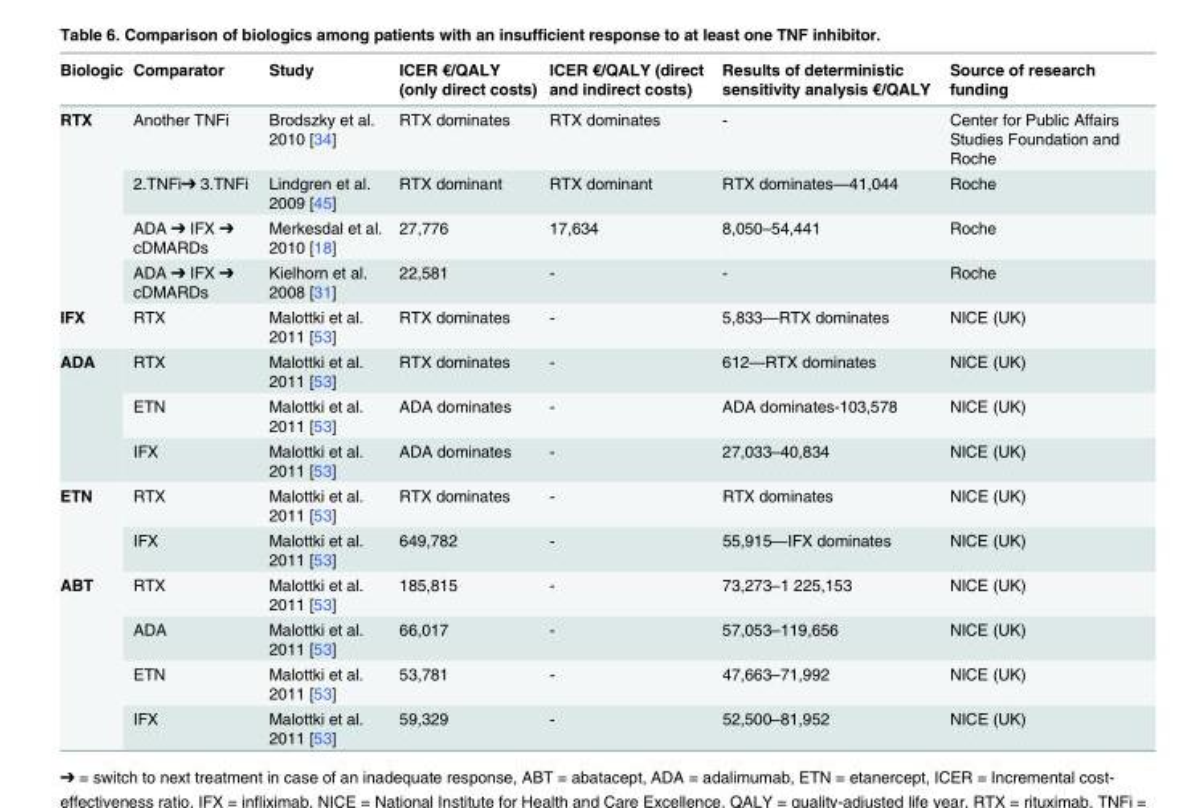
<table><thead><tr><td>Biologic</td><td>Comparator</td><td>Study</td><td>ICER €/QALY (only direct costs)</td><td>ICER €/QALY (direct and indirect costs)</td><td>Results of deterministic sensitivity analysis €/QALY</td><td>Source of research funding</td></tr></thead><tbody><tr><td rowspan="4">RTX</td><td>Another TNFi</td><td>Brodszky et al. 2010 [34]</td><td>RTX dominates</td><td>RTX dominates</td><td>-</td><td>Center for Public Affairs Studies Foundation and Roche</td></tr><tr><td>2.TNFi➔ 3.TNFi</td><td>Lindgren et al. 2009 [45]</td><td>RTX dominant</td><td>RTX dominant</td><td>RTX dominates—41,044</td><td>Roche</td></tr><tr><td>ADA ➔ IFX ➔ cDMARDs</td><td>Merkesdal et al. 2010 [18]</td><td>27,776</td><td>17,634</td><td>8,050–54,441</td><td>Roche</td></tr><tr><td>ADA ➔ IFX ➔ cDMARDs</td><td>Kielhorn et al. 2008 [31]</td><td>22,581</td><td>-</td><td>-</td><td>Roche</td></tr><tr><td>IFX</td><td>RTX</td><td>Malottki et al. 2011 [53]</td><td>RTX dominates</td><td>-</td><td>5,833—RTX dominates</td><td>NICE (UK)</td></tr><tr><td rowspan="3">ADA</td><td>RTX</td><td>Malottki et al. 2011 [53]</td><td>RTX dominates</td><td>-</td><td>612—RTX dominates</td><td>NICE (UK)</td></tr><tr><td>ETN</td><td>Malottki et al. 2011 [53]</td><td>ADA dominates</td><td>-</td><td>ADA dominates-103,578</td><td>NICE (UK)</td></tr><tr><td>IFX</td><td>Malottki et al. 2011 [53]</td><td>ADA dominates</td><td>-</td><td>27,033–40,834</td><td>NICE (UK)</td></tr><tr><td rowspan="2">ETN</td><td>RTX</td><td>Malottki et al. 2011 [53]</td><td>RTX dominates</td><td>-</td><td>RTX dominates</td><td>NICE (UK)</td></tr><tr><td>IFX</td><td>Malottki et al. 2011 [53]</td><td>649,782</td><td>-</td><td>55,915—IFX dominates</td><td>NICE (UK)</td></tr><tr><td rowspan="4">ABT</td><td>RTX</td><td>Malottki et al. 2011 [53]</td><td>185,815</td><td>-</td><td>73,273–1 225,153</td><td>NICE (UK)</td></tr><tr><td>ADA</td><td>Malottki et al. 2011 [53]</td><td>66,017</td><td>-</td><td>57,053–119,656</td><td>NICE (UK)</td></tr><tr><td>ETN</td><td>Malottki et al. 2011 [53]</td><td>53,781</td><td>-</td><td>47,663–71,992</td><td>NICE (UK)</td></tr><tr><td>IFX</td><td>Malottki et al. 2011 [53]</td><td>59,329</td><td>-</td><td>52,500–81,952</td><td>NICE (UK)</td></tr></tbody></table>